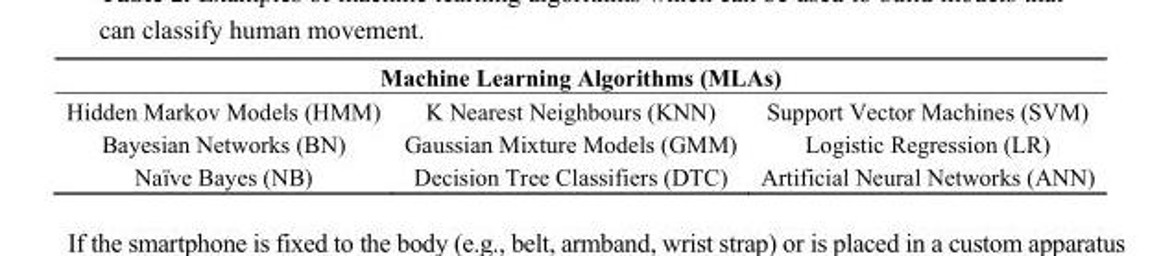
<table><thead><tr><td colspan="3">Machine Learning Algorithms (MLAs)</td></tr><tr><td>Hidden Markov Models (HMM)</td><td>K Nearest Neighbours (KNN)</td><td>Support Vector Machines (SVM)</td></tr></thead><tbody><tr><td>Bayesian Networks (BN)</td><td>Gaussian Mixture Models (GMM)</td><td>Logistic Regression (LR)</td></tr><tr><td>Naïve Bayes (NB)</td><td>Decision Tree Classifiers (DTC)</td><td>Artificial Neural Networks (ANN)</td></tr></tbody></table>